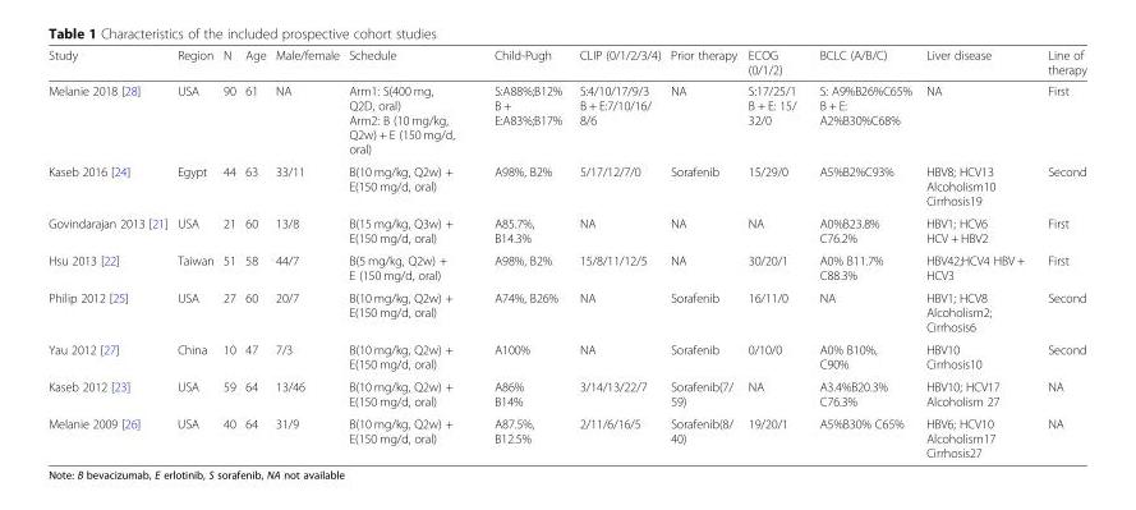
<table><thead><tr><td>Study</td><td>Region</td><td>N</td><td>Age</td><td>Male/female</td><td>Schedule</td><td>Child-Pugh</td><td>CLIP (0/1/2/3/4)</td><td>Prior therapy</td><td>ECOG (0/1/2)</td><td>BCLC (A/B/C)</td><td>Liver disease</td><td>Line of therapy</td></tr></thead><tbody><tr><td>Melanie 2018 [28]</td><td>USA</td><td>90</td><td>61</td><td>NA</td><td>Arm1: S(400 mg, Q2D, oral) Arm2: B (10 mg/kg, Q2w) + E (150 mg/d, oral)</td><td>S:A88%;B12% B + E:A83%;B17%</td><td>S:4/10/17/9/3 B + E:7/10/16/ 8/6</td><td>NA</td><td>S:17/25/1 B + E: 15/ 32/0</td><td>S: A9%B26%C65% B + E: A2%B30%C68%</td><td>NA</td><td>First</td></tr><tr><td>Kaseb 2016 [24]</td><td>Egypt</td><td>44</td><td>63</td><td>33/11</td><td>B(10 mg/kg, Q2w) + E(150 mg/d, oral)</td><td>A98%, B2%</td><td>5/17/12/7/0</td><td>Sorafenib</td><td>15/29/0</td><td>A5%B2%C93%</td><td>HBV8; HCV13 Alcoholism10 Cirrhosis19</td><td>Second</td></tr><tr><td>Govindarajan 2013 [21]</td><td>USA</td><td>21</td><td>60</td><td>13/8</td><td>B(15 mg/kg, Q3w) + E(150 mg/d, oral)</td><td>A85.7%, B14.3%</td><td>NA</td><td>NA</td><td>NA</td><td>A0%B23.8% C76.2%</td><td>HBV1; HCV6 HCV + HBV2</td><td>First</td></tr><tr><td>Hsu 2013 [22]</td><td>Taiwan</td><td>51</td><td>58</td><td>44/7</td><td>B(5 mg/kg, Q2w) + E (150 mg/d, oral)</td><td>A98%, B2%</td><td>15/8/11/12/5</td><td>NA</td><td>30/20/1</td><td>A0% B11.7% C88.3%</td><td>HBV42;HCV4 HBV + HCV3</td><td>First</td></tr><tr><td>Philip 2012 [25]</td><td>USA</td><td>27</td><td>60</td><td>20/7</td><td>B(10 mg/kg, Q2w) + E(150 mg/d, oral)</td><td>A74%, B26%</td><td>NA</td><td>Sorafenib</td><td>16/11/0</td><td>NA</td><td>HBV1; HCV8 Alcoholism2; Cirrhosis6</td><td>Second</td></tr><tr><td>Yau 2012 [27]</td><td>China</td><td>10</td><td>47</td><td>7/3</td><td>B(10 mg/kg, Q2w) + E(150 mg/d, oral)</td><td>A100%</td><td>NA</td><td>Sorafenib</td><td>0/10/0</td><td>A0% B10%, C90%</td><td>HBV10 Cirrhosis10</td><td>Second</td></tr><tr><td>Kaseb 2012 [23]</td><td>USA</td><td>59</td><td>64</td><td>13/46</td><td>B(10 mg/kg, Q2w) + E(150 mg/d, oral)</td><td>A86% B14%</td><td>3/14/13/22/7</td><td>Sorafenib(7/ 59)</td><td>NA</td><td>A3.4%B20.3% C76.3%</td><td>HBV10; HCV17 Alcoholism 27</td><td>NA</td></tr><tr><td>Melanie 2009 [26]</td><td>USA</td><td>40</td><td>64</td><td>31/9</td><td>B(10 mg/kg, Q2w) + E(150 mg/d, oral)</td><td>A87.5%, B12.5%</td><td>2/11/6/16/5</td><td>Sorafenib(8/ 40)</td><td>19/20/1</td><td>A5%B30% C65%</td><td>HBV6; HCV10 Alcoholism17 Cirrhosis27</td><td>NA</td></tr></tbody></table>